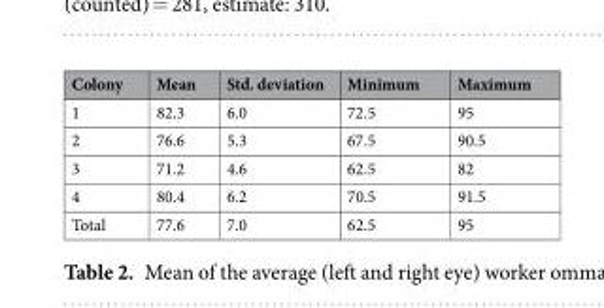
<table><thead><tr><td>Colony</td><td>Mean</td><td>Std. deviation</td><td>Minimum</td><td>Maximum</td></tr></thead><tbody><tr><td>1</td><td>82.3</td><td>6.0</td><td>72.5</td><td>95</td></tr><tr><td>2</td><td>76.6</td><td>5.3</td><td>67.5</td><td>90.5</td></tr><tr><td>3</td><td>71.2</td><td>4.6</td><td>62.5</td><td>82</td></tr><tr><td>4</td><td>80.4</td><td>6.2</td><td>70.5</td><td>91.5</td></tr><tr><td>Total</td><td>77.6</td><td>7.0</td><td>62.5</td><td>95</td></tr></tbody></table>